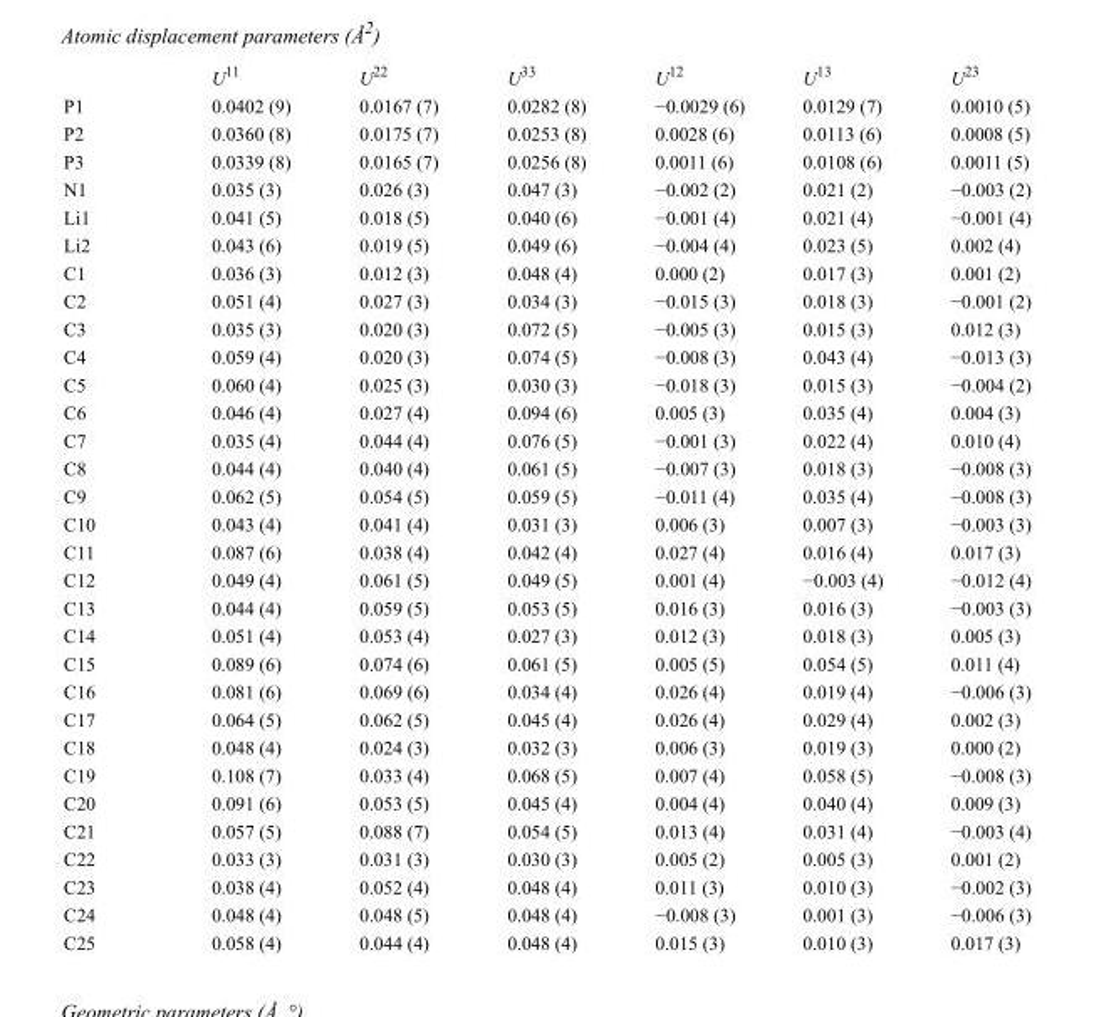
<table><thead><tr><td></td><td>U<sup>11</sup></td><td>U<sup>22</sup></td><td>U<sup>33</sup></td><td>U<sup>12</sup></td><td>U<sup>13</sup></td><td>U<sup>23</sup></td></tr></thead><tbody><tr><td>P1</td><td>0.0402 (9)</td><td>0.0167 (7)</td><td>0.0282 (8)</td><td>−0.0029 (6)</td><td>0.0129 (7)</td><td>0.0010 (5)</td></tr><tr><td>P2</td><td>0.0360 (8)</td><td>0.0175 (7)</td><td>0.0253 (8)</td><td>0.0028 (6)</td><td>0.0113 (6)</td><td>0.0008 (5)</td></tr><tr><td>P3</td><td>0.0339 (8)</td><td>0.0165 (7)</td><td>0.0256 (8)</td><td>0.0011 (6)</td><td>0.0108 (6)</td><td>0.0011 (5)</td></tr><tr><td>N1</td><td>0.035 (3)</td><td>0.026 (3)</td><td>0.047 (3)</td><td>−0.002 (2)</td><td>0.021 (2)</td><td>−0.003 (2)</td></tr><tr><td>Li1</td><td>0.041 (5)</td><td>0.018 (5)</td><td>0.040 (6)</td><td>−0.001 (4)</td><td>0.021 (4)</td><td>−0.001 (4)</td></tr><tr><td>Li2</td><td>0.043 (6)</td><td>0.019 (5)</td><td>0.049 (6)</td><td>−0.004 (4)</td><td>0.023 (5)</td><td>0.002 (4)</td></tr><tr><td>C1</td><td>0.036 (3)</td><td>0.012 (3)</td><td>0.048 (4)</td><td>0.000 (2)</td><td>0.017 (3)</td><td>0.001 (2)</td></tr><tr><td>C2</td><td>0.051 (4)</td><td>0.027 (3)</td><td>0.034 (3)</td><td>−0.015 (3)</td><td>0.018 (3)</td><td>−0.001 (2)</td></tr><tr><td>C3</td><td>0.035 (3)</td><td>0.020 (3)</td><td>0.072 (5)</td><td>−0.005 (3)</td><td>0.015 (3)</td><td>0.012 (3)</td></tr><tr><td>C4</td><td>0.059 (4)</td><td>0.020 (3)</td><td>0.074 (5)</td><td>−0.008 (3)</td><td>0.043 (4)</td><td>−0.013 (3)</td></tr><tr><td>C5</td><td>0.060 (4)</td><td>0.025 (3)</td><td>0.030 (3)</td><td>−0.018 (3)</td><td>0.015 (3)</td><td>−0.004 (2)</td></tr><tr><td>C6</td><td>0.046 (4)</td><td>0.027 (4)</td><td>0.094 (6)</td><td>0.005 (3)</td><td>0.035 (4)</td><td>0.004 (3)</td></tr><tr><td>C7</td><td>0.035 (4)</td><td>0.044 (4)</td><td>0.076 (5)</td><td>−0.001 (3)</td><td>0.022 (4)</td><td>0.010 (4)</td></tr><tr><td>C8</td><td>0.044 (4)</td><td>0.040 (4)</td><td>0.061 (5)</td><td>−0.007 (3)</td><td>0.018 (3)</td><td>−0.008 (3)</td></tr><tr><td>C9</td><td>0.062 (5)</td><td>0.054 (5)</td><td>0.059 (5)</td><td>−0.011 (4)</td><td>0.035 (4)</td><td>−0.008 (3)</td></tr><tr><td>C10</td><td>0.043 (4)</td><td>0.041 (4)</td><td>0.031 (3)</td><td>0.006 (3)</td><td>0.007 (3)</td><td>−0.003 (3)</td></tr><tr><td>C11</td><td>0.087 (6)</td><td>0.038 (4)</td><td>0.042 (4)</td><td>0.027 (4)</td><td>0.016 (4)</td><td>0.017 (3)</td></tr><tr><td>C12</td><td>0.049 (4)</td><td>0.061 (5)</td><td>0.049 (5)</td><td>0.001 (4)</td><td>−0.003 (4)</td><td>−0.012 (4)</td></tr><tr><td>C13</td><td>0.044 (4)</td><td>0.059 (5)</td><td>0.053 (5)</td><td>0.016 (3)</td><td>0.016 (3)</td><td>−0.003 (3)</td></tr><tr><td>C14</td><td>0.051 (4)</td><td>0.053 (4)</td><td>0.027 (3)</td><td>0.012 (3)</td><td>0.018 (3)</td><td>0.005 (3)</td></tr><tr><td>C15</td><td>0.089 (6)</td><td>0.074 (6)</td><td>0.061 (5)</td><td>0.005 (5)</td><td>0.054 (5)</td><td>0.011 (4)</td></tr><tr><td>C16</td><td>0.081 (6)</td><td>0.069 (6)</td><td>0.034 (4)</td><td>0.026 (4)</td><td>0.019 (4)</td><td>−0.006 (3)</td></tr><tr><td>C17</td><td>0.064 (5)</td><td>0.062 (5)</td><td>0.045 (4)</td><td>0.026 (4)</td><td>0.029 (4)</td><td>0.002 (3)</td></tr><tr><td>C18</td><td>0.048 (4)</td><td>0.024 (3)</td><td>0.032 (3)</td><td>0.006 (3)</td><td>0.019 (3)</td><td>0.000 (2)</td></tr><tr><td>C19</td><td>0.108 (7)</td><td>0.033 (4)</td><td>0.068 (5)</td><td>0.007 (4)</td><td>0.058 (5)</td><td>−0.008 (3)</td></tr><tr><td>C20</td><td>0.091 (6)</td><td>0.053 (5)</td><td>0.045 (4)</td><td>0.004 (4)</td><td>0.040 (4)</td><td>0.009 (3)</td></tr><tr><td>C21</td><td>0.057 (5)</td><td>0.088 (7)</td><td>0.054 (5)</td><td>0.013 (4)</td><td>0.031 (4)</td><td>−0.003 (4)</td></tr><tr><td>C22</td><td>0.033 (3)</td><td>0.031 (3)</td><td>0.030 (3)</td><td>0.005 (2)</td><td>0.005 (3)</td><td>0.001 (2)</td></tr><tr><td>C23</td><td>0.038 (4)</td><td>0.052 (4)</td><td>0.048 (4)</td><td>0.011 (3)</td><td>0.010 (3)</td><td>−0.002 (3)</td></tr><tr><td>C24</td><td>0.048 (4)</td><td>0.048 (5)</td><td>0.048 (4)</td><td>−0.008 (3)</td><td>0.001 (3)</td><td>−0.006 (3)</td></tr><tr><td>C25</td><td>0.058 (4)</td><td>0.044 (4)</td><td>0.048 (4)</td><td>0.015 (3)</td><td>0.010 (3)</td><td>0.017 (3)</td></tr></tbody></table>